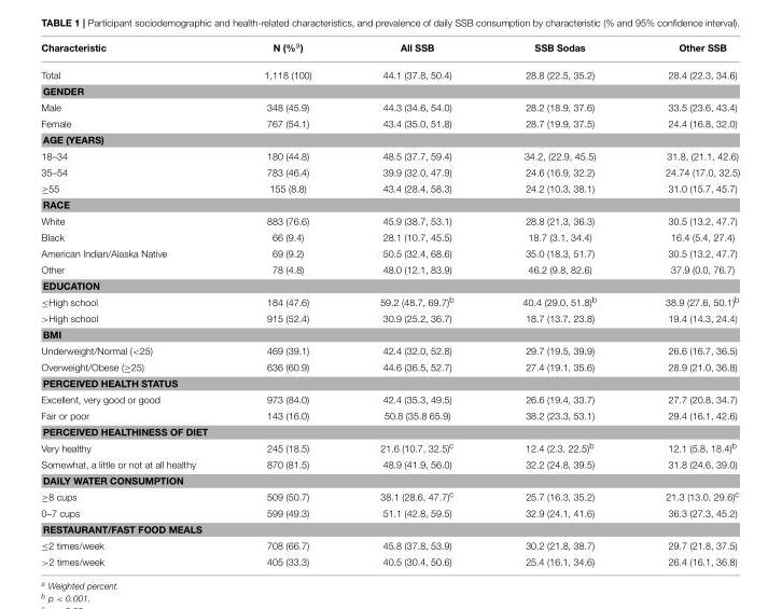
<table><thead><tr><td>Characteristic</td><td>N (%<sup>a</sup>)</td><td>All SSB</td><td>SSB Sodas</td><td>Other SSB</td></tr></thead><tbody><tr><td>Total</td><td>1,118 (100)</td><td>44.1 (37.8, 50.4)</td><td>28.8 (22.5, 35.2)</td><td>28.4 (22.3, 34.6)</td></tr><tr><td colspan="5">GENDER</td></tr><tr><td>Male</td><td>348 (45.9)</td><td>44.3 (34.6, 54.0)</td><td>28.2 (18.9, 37.6)</td><td>33.5 (23.6, 43.4)</td></tr><tr><td>Female</td><td>767 (54.1)</td><td>43.4 (35.0, 51.8)</td><td>28.7 (19.9, 37.5)</td><td>24.4 (16.8, 32.0)</td></tr><tr><td colspan="5">AGE (YEARS)</td></tr><tr><td>18–34</td><td>180 (44.8)</td><td>48.5 (37.7, 59.4)</td><td>34.2, (22.9, 45.5)</td><td>31.8, (21.1, 42.6)</td></tr><tr><td>35–54</td><td>783 (46.4)</td><td>39.9 (32.0, 47.9)</td><td>24.6 (16.9, 32.2)</td><td>24.74 (17.0, 32.5)</td></tr><tr><td>≥55</td><td>155 (8.8)</td><td>43.4 (28.4, 58.3)</td><td>24.2 (10.3, 38.1)</td><td>31.0 (15.7, 45.7)</td></tr><tr><td colspan="5">RACE</td></tr><tr><td>White</td><td>883 (76.6)</td><td>45.9 (38.7, 53.1)</td><td>28.8 (21.3, 36.3)</td><td>30.5 (13.2, 47.7)</td></tr><tr><td>Black</td><td>66 (9.4)</td><td>28.1 (10.7, 45.5)</td><td>18.7 (3.1, 34.4)</td><td>16.4 (5.4, 27.4)</td></tr><tr><td>American Indian/Alaska Native</td><td>69 (9.2)</td><td>50.5 (32.4, 68.6)</td><td>35.0 (18.3, 51.7)</td><td>30.5 (13.2, 47.7)</td></tr><tr><td>Other</td><td>78 (4.8)</td><td>48.0 (12.1, 83.9)</td><td>46.2 (9.8, 82.6)</td><td>37.9 (0.0, 76.7)</td></tr><tr><td colspan="5">EDUCATION</td></tr><tr><td>≤High school</td><td>184 (47.6)</td><td>59.2 (48.7, 69.7)<sup>b</sup></td><td>40.4 (29.0, 51.8)<sup>b</sup></td><td>38.9 (27.6, 50.1)<sup>b</sup></td></tr><tr><td>&gt;High school</td><td>915 (52.4)</td><td>30.9 (25.2, 36.7)</td><td>18.7 (13.7, 23.8)</td><td>19.4 (14.3, 24.4)</td></tr><tr><td colspan="5">BMI</td></tr><tr><td>Underweight/Normal (&lt;25)</td><td>469 (39.1)</td><td>42.4 (32.0, 52.8)</td><td>29.7 (19.5, 39.9)</td><td>26.6 (16.7, 36.5)</td></tr><tr><td>Overweight/Obese (≥25)</td><td>636 (60.9)</td><td>44.6 (36.5, 52.7)</td><td>27.4 (19.1, 35.6)</td><td>28.9 (21.0, 36.8)</td></tr><tr><td colspan="5">PERCEIVED HEALTH STATUS</td></tr><tr><td>Excellent, very good or good</td><td>973 (84.0)</td><td>42.4 (35.3, 49.5)</td><td>26.6 (19.4, 33.7)</td><td>27.7 (20.8, 34.7)</td></tr><tr><td>Fair or poor</td><td>143 (16.0)</td><td>50.8 (35.8 65.9)</td><td>38.2 (23.3, 53.1)</td><td>29.4 (16.1, 42.6)</td></tr><tr><td colspan="5">PERCEIVED HEALTHINESS OF DIET</td></tr><tr><td>Very healthy</td><td>245 (18.5)</td><td>21.6 (10.7, 32.5)<sup>c</sup></td><td>12.4 (2.3, 22.5)<sup>b</sup></td><td>12.1 (5.8, 18.4)<sup>b</sup></td></tr><tr><td>Somewhat, a little or not at all healthy</td><td>870 (81.5)</td><td>48.9 (41.9, 56.0)</td><td>32.2 (24.8, 39.5)</td><td>31.8 (24.6, 39.0)</td></tr><tr><td colspan="5">DAILY WATER CONSUMPTION</td></tr><tr><td>≥8 cups</td><td>509 (50.7)</td><td>38.1 (28.6, 47.7)<sup>c</sup></td><td>25.7 (16.3, 35.2)</td><td>21.3 (13.0, 29.6)<sup>c</sup></td></tr><tr><td>0–7 cups</td><td>599 (49.3)</td><td>51.1 (42.8, 59.5)</td><td>32.9 (24.1, 41.6)</td><td>36.3 (27.3, 45.2)</td></tr><tr><td colspan="5">RESTAURANT/FAST FOOD MEALS</td></tr><tr><td>≤2 times/week</td><td>708 (66.7)</td><td>45.8 (37.8, 53.9)</td><td>30.2 (21.8, 38.7)</td><td>29.7 (21.8, 37.5)</td></tr><tr><td>&gt;2 times/week</td><td>405 (33.3)</td><td>40.5 (30.4, 50.6)</td><td>25.4 (16.1, 34.6)</td><td>26.4 (16.1, 36.8)</td></tr></tbody></table>